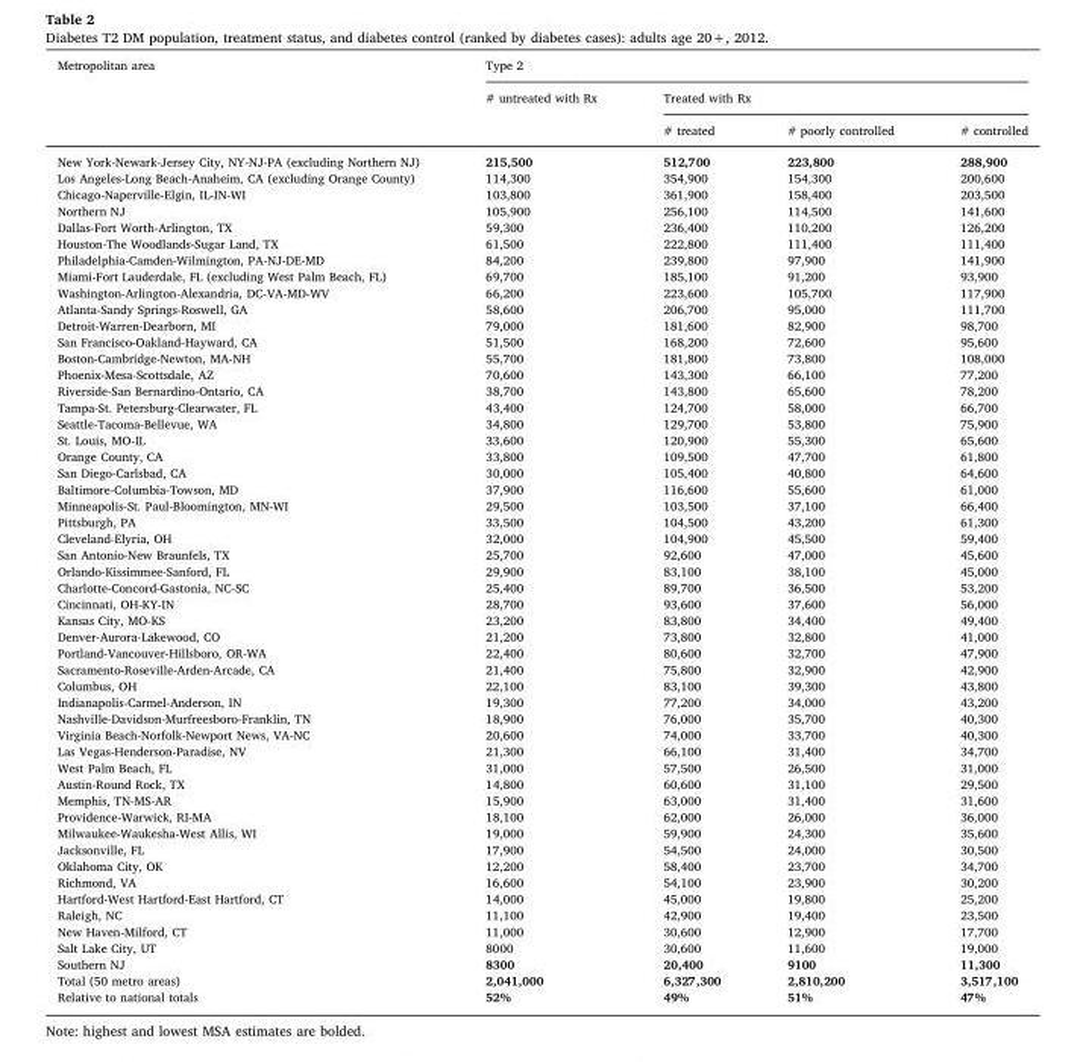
<table><thead><tr><td rowspan="3">Metropolitan area</td><td colspan="4">Type 2</td></tr><tr><td rowspan="2"># untreated with Rx</td><td colspan="3">Treated with Rx</td></tr><tr><td># treated</td><td># poorly controlled</td><td># controlled</td></tr></thead><tbody><tr><td>New York-Newark-Jersey City, NY-NJ-PA (excluding Northern NJ)</td><td>215,500</td><td>512,700</td><td>223,800</td><td>288,900</td></tr><tr><td>Los Angeles-Long Beach-Anaheim, CA (excluding Orange County)</td><td>114,300</td><td>354,900</td><td>154,300</td><td>200,600</td></tr><tr><td>Chicago-Naperville-Elgin, IL-IN-WI</td><td>103,800</td><td>361,900</td><td>158,400</td><td>203,500</td></tr><tr><td>Northern NJ</td><td>105,900</td><td>256,100</td><td>114,500</td><td>141,600</td></tr><tr><td>Dallas-Fort Worth-Arlington, TX</td><td>59,300</td><td>236,400</td><td>110,200</td><td>126,200</td></tr><tr><td>Houston-The Woodlands-Sugar Land, TX</td><td>61,500</td><td>222,800</td><td>111,400</td><td>111,400</td></tr><tr><td>Philadelphia-Camden-Wilmington, PA-NJ-DE-MD</td><td>84,200</td><td>239,800</td><td>97,900</td><td>141,900</td></tr><tr><td>Miami-Fort Lauderdale, FL (excluding West Palm Beach, FL)</td><td>69,700</td><td>185,100</td><td>91,200</td><td>93,900</td></tr><tr><td>Washington-Arlington-Alexandria, DC-VA-MD-WV</td><td>66,200</td><td>223,600</td><td>105,700</td><td>117,900</td></tr><tr><td>Atlanta-Sandy Springs-Roswell, GA</td><td>58,600</td><td>206,700</td><td>95,000</td><td>111,700</td></tr><tr><td>Detroit-Warren-Dearborn, MI</td><td>79,000</td><td>181,600</td><td>82,900</td><td>98,700</td></tr><tr><td>San Francisco-Oakland-Hayward, CA</td><td>51,500</td><td>168,200</td><td>72,600</td><td>95,600</td></tr><tr><td>Boston-Cambridge-Newton, MA-NH</td><td>55,700</td><td>181,800</td><td>73,800</td><td>108,000</td></tr><tr><td>Phoenix-Mesa-Scottsdale, AZ</td><td>70,600</td><td>143,300</td><td>66,100</td><td>77,200</td></tr><tr><td>Riverside-San Bernardino-Ontario, CA</td><td>38,700</td><td>143,800</td><td>65,600</td><td>78,200</td></tr><tr><td>Tampa-St. Petersburg-Clearwater, FL</td><td>43,400</td><td>124,700</td><td>58,000</td><td>66,700</td></tr><tr><td>Seattle-Tacoma-Bellevue, WA</td><td>34,800</td><td>129,700</td><td>53,800</td><td>75,900</td></tr><tr><td>St. Louis, MO-IL</td><td>33,600</td><td>120,900</td><td>55,300</td><td>65,600</td></tr><tr><td>Orange County, CA</td><td>33,800</td><td>109,500</td><td>47,700</td><td>61,800</td></tr><tr><td>San Diego-Carlsbad, CA</td><td>30,000</td><td>105,400</td><td>40,800</td><td>64,600</td></tr><tr><td>Baltimore-Columbia-Towson, MD</td><td>37,900</td><td>116,600</td><td>55,600</td><td>61,000</td></tr><tr><td>Minneapolis-St. Paul-Bloomington, MN-WI</td><td>29,500</td><td>103,500</td><td>37,100</td><td>66,400</td></tr><tr><td>Pittsburgh, PA</td><td>33,500</td><td>104,500</td><td>43,200</td><td>61,300</td></tr><tr><td>Cleveland-Elyria, OH</td><td>32,000</td><td>104,900</td><td>45,500</td><td>59,400</td></tr><tr><td>San Antonio-New Braunfels, TX</td><td>25,700</td><td>92,600</td><td>47,000</td><td>45,600</td></tr><tr><td>Orlando-Kissimmee-Sanford, FL</td><td>29,900</td><td>83,100</td><td>38,100</td><td>45,000</td></tr><tr><td>Charlotte-Concord-Gastonia, NC-SC</td><td>25,400</td><td>89,700</td><td>36,500</td><td>53,200</td></tr><tr><td>Cincinnati, OH-KY-IN</td><td>28,700</td><td>93,600</td><td>37,600</td><td>56,000</td></tr><tr><td>Kansas City, MO-KS</td><td>23,200</td><td>83,800</td><td>34,400</td><td>49,400</td></tr><tr><td>Denver-Aurora-Lakewood, CO</td><td>21,200</td><td>73,800</td><td>32,800</td><td>41,000</td></tr><tr><td>Portland-Vancouver-Hillsboro, OR-WA</td><td>22,400</td><td>80,600</td><td>32,700</td><td>47,900</td></tr><tr><td>Sacramento-Roseville-Arden-Arcade, CA</td><td>21,400</td><td>75,800</td><td>32,900</td><td>42,900</td></tr><tr><td>Columbus, OH</td><td>22,100</td><td>83,100</td><td>39,300</td><td>43,800</td></tr><tr><td>Indianapolis-Carmel-Anderson, IN</td><td>19,300</td><td>77,200</td><td>34,000</td><td>43,200</td></tr><tr><td>Nashville-Davidson-Murfreesboro-Franklin, TN</td><td>18,900</td><td>76,000</td><td>35,700</td><td>40,300</td></tr><tr><td>Virginia Beach-Norfolk-Newport News, VA-NC</td><td>20,600</td><td>74,000</td><td>33,700</td><td>40,300</td></tr><tr><td>Las Vegas-Henderson-Paradise, NV</td><td>21,300</td><td>66,100</td><td>31,400</td><td>34,700</td></tr><tr><td>West Palm Beach, FL</td><td>31,000</td><td>57,500</td><td>26,500</td><td>31,000</td></tr><tr><td>Austin-Round Rock, TX</td><td>14,800</td><td>60,600</td><td>31,100</td><td>29,500</td></tr><tr><td>Memphis, TN-MS-AR</td><td>15,900</td><td>63,000</td><td>31,400</td><td>31,600</td></tr><tr><td>Providence-Warwick, RI-MA</td><td>18,100</td><td>62,000</td><td>26,000</td><td>36,000</td></tr><tr><td>Milwaukee-Waukesha-West Allis, WI</td><td>19,000</td><td>59,900</td><td>24,300</td><td>35,600</td></tr><tr><td>Jacksonville, FL</td><td>17,900</td><td>54,500</td><td>24,000</td><td>30,500</td></tr><tr><td>Oklahoma City, OK</td><td>12,200</td><td>58,400</td><td>23,700</td><td>34,700</td></tr><tr><td>Richmond, VA</td><td>16,600</td><td>54,100</td><td>23,900</td><td>30,200</td></tr><tr><td>Hartford-West Hartford-East Hartford, CT</td><td>14,000</td><td>45,000</td><td>19,800</td><td>25,200</td></tr><tr><td>Raleigh, NC</td><td>11,100</td><td>42,900</td><td>19,400</td><td>23,500</td></tr><tr><td>New Haven-Milford, CT</td><td>11,000</td><td>30,600</td><td>12,900</td><td>17,700</td></tr><tr><td>Salt Lake City, UT</td><td>8000</td><td>30,600</td><td>11,600</td><td>19,000</td></tr><tr><td>Southern NJ</td><td>8300</td><td>20,400</td><td>9100</td><td>11,300</td></tr><tr><td>Total (50 metro areas)</td><td>2,041,000</td><td>6,327,300</td><td>2,810,200</td><td>3,517,100</td></tr><tr><td>Relative to national totals</td><td>52%</td><td>49%</td><td>51%</td><td>47%</td></tr></tbody></table>